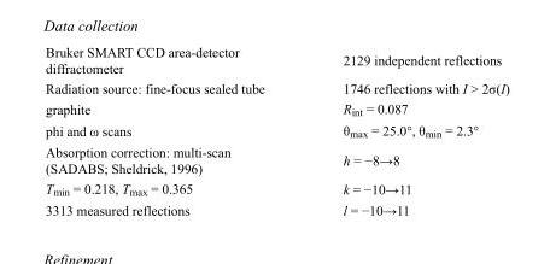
<table><tbody><tr><td>Bruker SMART CCD area-detector diffractometer</td><td>2129 independent reflections</td></tr><tr><td>Radiation source: fine-focus sealed tube</td><td>1746 reflections with I &gt; 2σ(I)</td></tr><tr><td>graphite</td><td>R<sub>int</sub> = 0.087</td></tr><tr><td>phi and ω scans</td><td>θ<sub>max</sub> = 25.0°, θ<sub>min</sub> = 2.3°</td></tr><tr><td>Absorption correction: multi-scan (SADABS; Sheldrick, 1996)</td><td>h = −8→8</td></tr><tr><td>T<sub>min</sub> = 0.218, T<sub>max</sub> = 0.365</td><td>k = −10→11</td></tr><tr><td>3313 measured reflections</td><td>l = −10→11</td></tr></tbody></table>